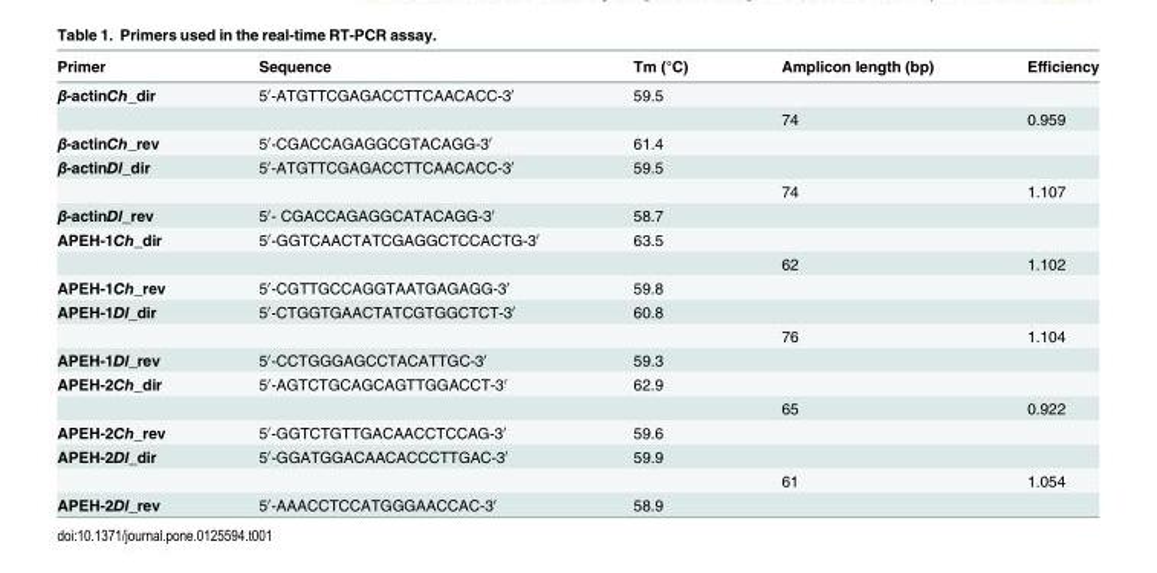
<table><thead><tr><td>Primer</td><td>Sequence</td><td>Tm (°C)</td><td>Amplicon length (bp)</td><td>Efficiency</td></tr></thead><tbody><tr><td rowspan="2">β-actinCh_dir</td><td>5′-ATGTTCGAGACCTTCAACACC-3′</td><td>59.5</td><td></td><td></td></tr><tr><td></td><td></td><td>74</td><td>0.959</td></tr><tr><td>β-actinCh_rev</td><td>5′-CGACCAGAGGCGTACAGG-3′</td><td>61.4</td><td></td><td></td></tr><tr><td rowspan="2">β-actinDl_dir</td><td>5′-ATGTTCGAGACCTTCAACACC-3′</td><td>59.5</td><td></td><td></td></tr><tr><td></td><td></td><td>74</td><td>1.107</td></tr><tr><td>β-actinDl_rev</td><td>5′- CGACCAGAGGCATACAGG-3′</td><td>58.7</td><td></td><td></td></tr><tr><td rowspan="2">APEH-1Ch_dir</td><td>5′-GGTCAACTATCGAGGCTCCACTG-3′</td><td>63.5</td><td></td><td></td></tr><tr><td></td><td></td><td>62</td><td>1.102</td></tr><tr><td>APEH-1Ch_rev</td><td>5′-CGTTGCCAGGTAATGAGAGG-3′</td><td>59.8</td><td></td><td></td></tr><tr><td rowspan="2">APEH-1Dl_dir</td><td>5′-CTGGTGAACTATCGTGGCTCT-3′</td><td>60.8</td><td></td><td></td></tr><tr><td></td><td></td><td>76</td><td>1.104</td></tr><tr><td>APEH-1Dl_rev</td><td>5′-CCTGGGAGCCTACATTGC-3′</td><td>59.3</td><td></td><td></td></tr><tr><td rowspan="2">APEH-2Ch_dir</td><td>5′-AGTCTGCAGCAGTTGGACCT-3′</td><td>62.9</td><td></td><td></td></tr><tr><td></td><td></td><td>65</td><td>0.922</td></tr><tr><td>APEH-2Ch_rev</td><td>5′-GGTCTGTTGACAACCTCCAG-3′</td><td>59.6</td><td></td><td></td></tr><tr><td rowspan="2">APEH-2Dl_dir</td><td>5′-GGATGGACAACACCCTTGAC-3′</td><td>59.9</td><td></td><td></td></tr><tr><td></td><td></td><td>61</td><td>1.054</td></tr><tr><td>APEH-2Dl_rev</td><td>5′-AAACCTCCATGGGAACCAC-3′</td><td>58.9</td><td></td><td></td></tr></tbody></table>